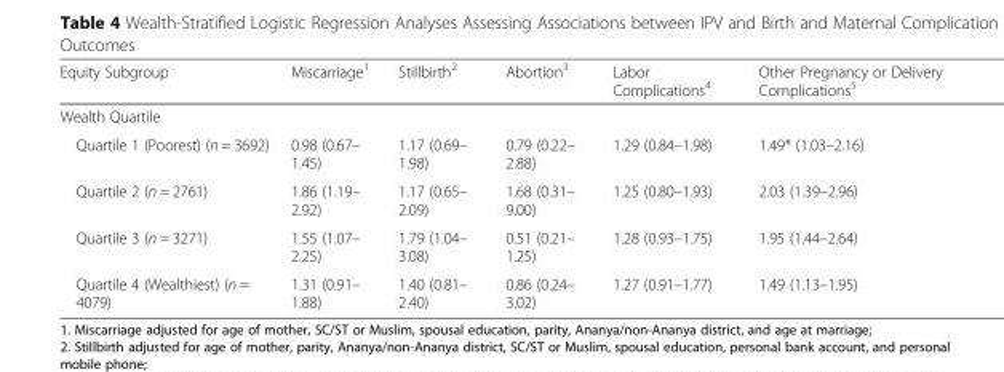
<table><thead><tr><td>Equity Subgroup</td><td>Miscarriage<sup>1</sup></td><td>Stillbirth<sup>2</sup></td><td>Abortion<sup>3</sup></td><td>Labor Complications<sup>4</sup></td><td>Other Pregnancy or Delivery Complications<sup>5</sup></td></tr></thead><tbody><tr><td colspan="6">Wealth Quartile</td></tr><tr><td>Quartile 1 (Poorest) (n = 3692)</td><td>0.98 (0.67– 1.45)</td><td>1.17 (0.69– 1.98)</td><td>0.79 (0.22– 2.88)</td><td>1.29 (0.84–1.98)</td><td>1.49* (1.03–2.16)</td></tr><tr><td>Quartile 2 (n = 2761)</td><td>1.86 (1.19– 2.92)</td><td>1.17 (0.65– 2.09)</td><td>1.68 (0.31– 9.00)</td><td>1.25 (0.80–1.93)</td><td>2.03 (1.39–2.96)</td></tr><tr><td>Quartile 3 (n = 3271)</td><td>1.55 (1.07– 2.25)</td><td>1.79 (1.04– 3.08)</td><td>0.51 (0.21– 1.25)</td><td>1.28 (0.93–1.75)</td><td>1.95 (1.44–2.64)</td></tr><tr><td>Quartile 4 (Wealthiest) (n = 4079)</td><td>1.31 (0.91– 1.88)</td><td>1.40 (0.81– 2.40)</td><td>0.86 (0.24– 3.02)</td><td>1.27 (0.91–1.77)</td><td>1.49 (1.13–1.95)</td></tr></tbody></table>